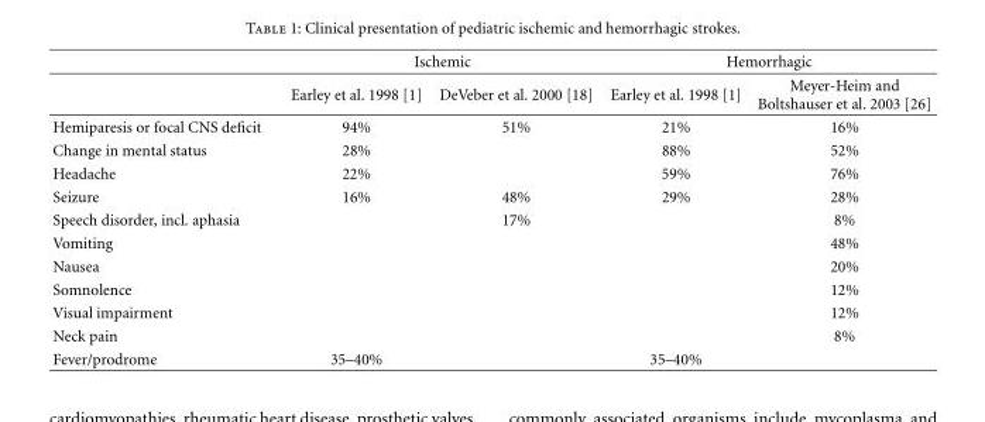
<table><thead><tr><td rowspan="2"></td><td colspan="2">Ischemic</td><td colspan="2">Hemorrhagic</td></tr><tr><td>Earley et al. 1998 [1]</td><td>DeVeber et al. 2000 [18]</td><td>Earley et al. 1998 [1]</td><td>Meyer-Heim and Boltshauser et al. 2003 [26]</td></tr></thead><tbody><tr><td>Hemiparesis or focal CNS deficit</td><td>94%</td><td>51%</td><td>21%</td><td>16%</td></tr><tr><td>Change in mental status</td><td>28%</td><td></td><td>88%</td><td>52%</td></tr><tr><td>Headache</td><td>22%</td><td></td><td>59%</td><td>76%</td></tr><tr><td>Seizure</td><td>16%</td><td>48%</td><td>29%</td><td>28%</td></tr><tr><td>Speech disorder, incl. aphasia</td><td></td><td>17%</td><td></td><td>8%</td></tr><tr><td>Vomiting</td><td></td><td></td><td></td><td>48%</td></tr><tr><td>Nausea</td><td></td><td></td><td></td><td>20%</td></tr><tr><td>Somnolence</td><td></td><td></td><td></td><td>12%</td></tr><tr><td>Visual impairment</td><td></td><td></td><td></td><td>12%</td></tr><tr><td>Neck pain</td><td></td><td></td><td></td><td>8%</td></tr><tr><td>Fever/prodrome</td><td>35–40%</td><td></td><td>35–40%</td><td></td></tr></tbody></table>